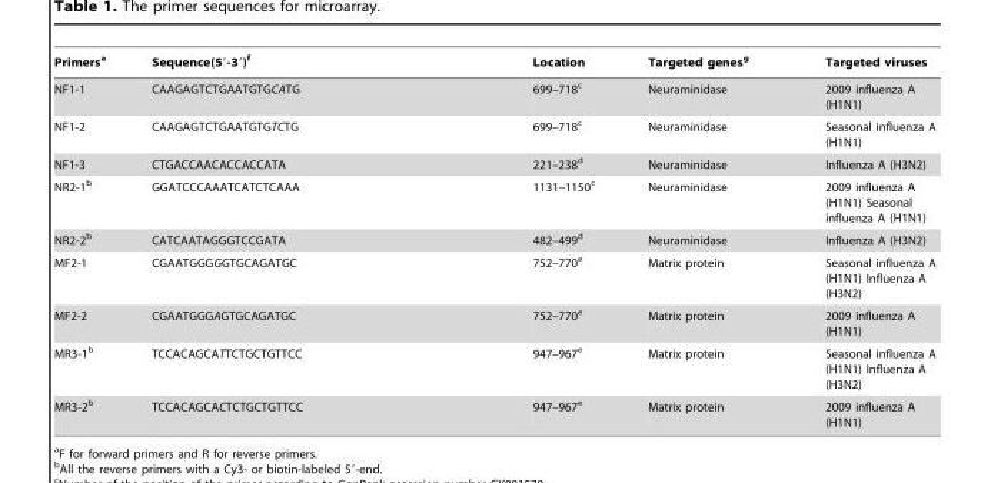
<table><thead><tr><td>Primers<sup>a</sup></td><td>Sequence(5′-3′)<sup>f</sup></td><td>Location</td><td>Targeted genes<sup>g</sup></td><td>Targeted viruses</td></tr></thead><tbody><tr><td>NF1-1</td><td>CAAGAGTCTGAATGTGCATG</td><td>699–718<sup>c</sup></td><td>Neuraminidase</td><td>2009 influenza A (H1N1)</td></tr><tr><td>NF1-2</td><td>CAAGAGTCTGAATGTGTCTG</td><td>699–718<sup>c</sup></td><td>Neuraminidase</td><td>Seasonal influenza A (H1N1)</td></tr><tr><td>NF1-3</td><td>CTGACCAACACCACCATA</td><td>221–238<sup>d</sup></td><td>Neuraminidase</td><td>Influenza A (H3N2)</td></tr><tr><td>NR2-1<sup>b</sup></td><td>GGATCCCAAATCATCTCAAA</td><td>1131–1150<sup>c</sup></td><td>Neuraminidase</td><td>2009 influenza A (H1N1) Seasonal influenza A (H1N1)</td></tr><tr><td>NR2-2<sup>b</sup></td><td>CATCAATAGGGTCCGATA</td><td>482–499<sup>d</sup></td><td>Neuraminidase</td><td>Influenza A (H3N2)</td></tr><tr><td>MF2-1</td><td>CGAATGGGGGTGCAGATGC</td><td>752–770<sup>e</sup></td><td>Matrix protein</td><td>Seasonal influenza A (H1N1) Influenza A (H3N2)</td></tr><tr><td>MF2-2</td><td>CGAATGGGAGTGCAGATGC</td><td>752–770<sup>e</sup></td><td>Matrix protein</td><td>2009 influenza A (H1N1)</td></tr><tr><td>MR3-1<sup>b</sup></td><td>TCCACAGCATTCTGCTGTTCC</td><td>947–967<sup>e</sup></td><td>Matrix protein</td><td>Seasonal influenza A (H1N1) Influenza A (H3N2)</td></tr><tr><td>MR3-2<sup>b</sup></td><td>TCCACAGCACTCTGCTGTTCC</td><td>947–967<sup>e</sup></td><td>Matrix protein</td><td>2009 influenza A (H1N1)</td></tr></tbody></table>